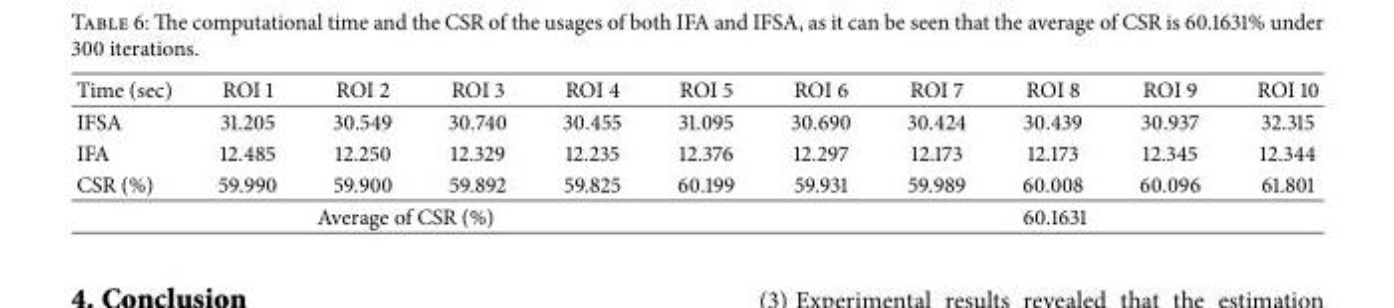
<table><thead><tr><td>Time (sec)</td><td>ROI 1</td><td>ROI 2</td><td>ROI 3</td><td>ROI 4</td><td>ROI 5</td><td>ROI 6</td><td>ROI 7</td><td>ROI 8</td><td>ROI 9</td><td>ROI 10</td></tr></thead><tbody><tr><td>IFSA</td><td>31.205</td><td>30.549</td><td>30.740</td><td>30.455</td><td>31.095</td><td>30.690</td><td>30.424</td><td>30.439</td><td>30.937</td><td>32.315</td></tr><tr><td>IFA</td><td>12.485</td><td>12.250</td><td>12.329</td><td>12.235</td><td>12.376</td><td>12.297</td><td>12.173</td><td>12.173</td><td>12.345</td><td>12.344</td></tr><tr><td>CSR (%)</td><td>59.990</td><td>59.900</td><td>59.892</td><td>59.825</td><td>60.199</td><td>59.931</td><td>59.989</td><td>60.008</td><td>60.096</td><td>61.801</td></tr><tr><td colspan="6">Average of CSR (%)</td><td colspan="5">60.1631</td></tr></tbody></table>